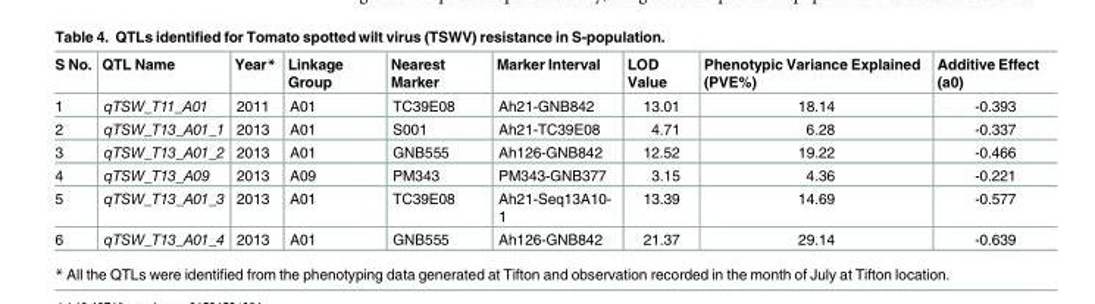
<table><thead><tr><td>S No.</td><td>QTL Name</td><td>Year*</td><td>Linkage Group</td><td>Nearest Marker</td><td>Marker Interval</td><td>LOD Value</td><td>Phenotypic Variance Explained (PVE%)</td><td>Additive Effect (a0)</td></tr></thead><tbody><tr><td>1</td><td>qTSW_T11_A01</td><td>2011</td><td>A01</td><td>TC39E08</td><td>Ah21-GNB842</td><td>13.01</td><td>18.14</td><td>-0.393</td></tr><tr><td>2</td><td>qTSW_T13_A01_1</td><td>2013</td><td>A01</td><td>S001</td><td>Ah21-TC39E08</td><td>4.71</td><td>6.28</td><td>-0.337</td></tr><tr><td>3</td><td>qTSW_T13_A01_2</td><td>2013</td><td>A01</td><td>GNB555</td><td>Ah126-GNB842</td><td>12.52</td><td>19.22</td><td>-0.466</td></tr><tr><td>4</td><td>qTSW_T13_A09</td><td>2013</td><td>A09</td><td>PM343</td><td>PM343-GNB377</td><td>3.15</td><td>4.36</td><td>-0.221</td></tr><tr><td>5</td><td>qTSW_T13_A01_3</td><td>2013</td><td>A01</td><td>TC39E08</td><td>Ah21-Seq13A10- 1</td><td>13.39</td><td>14.69</td><td>-0.577</td></tr><tr><td>6</td><td>qTSW_T13_A01_4</td><td>2013</td><td>A01</td><td>GNB555</td><td>Ah126-GNB842</td><td>21.37</td><td>29.14</td><td>-0.639</td></tr></tbody></table>